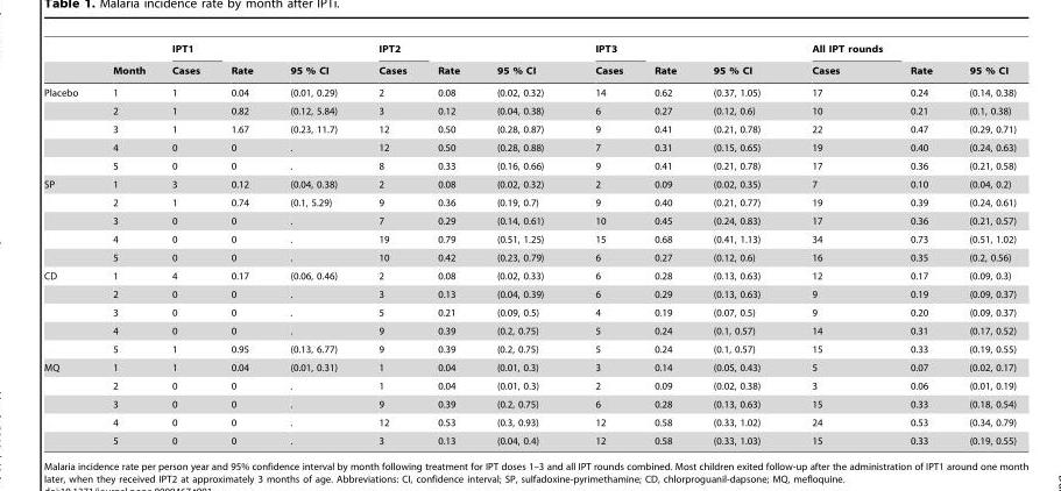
<table><thead><tr><td rowspan="2"></td><td rowspan="2">Month</td><td rowspan="2">IPT1 Cases</td><td rowspan="2">Rate</td><td rowspan="2">95 % CI</td><td rowspan="2">IPT2 Cases</td><td rowspan="2">Rate</td><td rowspan="2">95 % CI</td><td rowspan="2">IPT3 Cases</td><td rowspan="2">Rate</td><td rowspan="2">95 % CI</td><td rowspan="2">All IPT rounds Cases</td><td rowspan="2">Rate</td><td rowspan="2">95 % CI</td></tr><tr></tr></thead><tbody><tr><td rowspan="5">Placebo</td><td>1</td><td>1</td><td>0.04</td><td>(0.01, 0.29)</td><td>2</td><td>0.08</td><td>(0.02, 0.32)</td><td>14</td><td>0.62</td><td>(0.37, 1.05)</td><td>17</td><td>0.24</td><td>(0.14, 0.38)</td></tr><tr><td>2</td><td>1</td><td>0.82</td><td>(0.12, 5.84)</td><td>3</td><td>0.12</td><td>(0.04, 0.38)</td><td>6</td><td>0.27</td><td>(0.12, 0.6)</td><td>10</td><td>0.21</td><td>(0.1, 0.38)</td></tr><tr><td>3</td><td>1</td><td>1.67</td><td>(0.23, 11.7)</td><td>12</td><td>0.50</td><td>(0.28, 0.87)</td><td>9</td><td>0.41</td><td>(0.21, 0.78)</td><td>22</td><td>0.47</td><td>(0.29, 0.71)</td></tr><tr><td>4</td><td>0</td><td>0</td><td>.</td><td>12</td><td>0.50</td><td>(0.28, 0.88)</td><td>7</td><td>0.31</td><td>(0.15, 0.65)</td><td>19</td><td>0.40</td><td>(0.24, 0.63)</td></tr><tr><td>5</td><td>0</td><td>0</td><td>.</td><td>8</td><td>0.33</td><td>(0.16, 0.66)</td><td>9</td><td>0.41</td><td>(0.21, 0.78)</td><td>17</td><td>0.36</td><td>(0.21, 0.58)</td></tr><tr><td rowspan="5">SP</td><td>1</td><td>3</td><td>0.12</td><td>(0.04, 0.38)</td><td>2</td><td>0.08</td><td>(0.02, 0.32)</td><td>2</td><td>0.09</td><td>(0.02, 0.35)</td><td>7</td><td>0.10</td><td>(0.04, 0.2)</td></tr><tr><td>2</td><td>1</td><td>0.74</td><td>(0.1, 5.29)</td><td>9</td><td>0.36</td><td>(0.19, 0.7)</td><td>9</td><td>0.40</td><td>(0.21, 0.77)</td><td>19</td><td>0.39</td><td>(0.24, 0.61)</td></tr><tr><td>3</td><td>0</td><td>0</td><td>.</td><td>7</td><td>0.29</td><td>(0.14, 0.61)</td><td>10</td><td>0.45</td><td>(0.24, 0.83)</td><td>17</td><td>0.36</td><td>(0.21, 0.57)</td></tr><tr><td>4</td><td>0</td><td>0</td><td>.</td><td>19</td><td>0.79</td><td>(0.51, 1.25)</td><td>15</td><td>0.68</td><td>(0.41, 1.13)</td><td>34</td><td>0.73</td><td>(0.51, 1.02)</td></tr><tr><td>5</td><td>0</td><td>0</td><td>.</td><td>10</td><td>0.42</td><td>(0.23, 0.79)</td><td>6</td><td>0.27</td><td>(0.12, 0.6)</td><td>16</td><td>0.35</td><td>(0.2, 0.56)</td></tr><tr><td rowspan="5">CD</td><td>1</td><td>4</td><td>0.17</td><td>(0.06, 0.46)</td><td>2</td><td>0.08</td><td>(0.02, 0.33)</td><td>6</td><td>0.28</td><td>(0.13, 0.63)</td><td>12</td><td>0.17</td><td>(0.09, 0.3)</td></tr><tr><td>2</td><td>0</td><td>0</td><td>.</td><td>3</td><td>0.13</td><td>(0.04, 0.39)</td><td>6</td><td>0.29</td><td>(0.13, 0.63)</td><td>9</td><td>0.19</td><td>(0.09, 0.37)</td></tr><tr><td>3</td><td>0</td><td>0</td><td>.</td><td>5</td><td>0.21</td><td>(0.09, 0.5)</td><td>4</td><td>0.19</td><td>(0.07, 0.5)</td><td>9</td><td>0.20</td><td>(0.09, 0.37)</td></tr><tr><td>4</td><td>0</td><td>0</td><td>.</td><td>9</td><td>0.39</td><td>(0.2, 0.75)</td><td>5</td><td>0.24</td><td>(0.1, 0.57)</td><td>14</td><td>0.31</td><td>(0.17, 0.52)</td></tr><tr><td>5</td><td>1</td><td>0.95</td><td>(0.13, 6.77)</td><td>9</td><td>0.39</td><td>(0.2, 0.75)</td><td>5</td><td>0.24</td><td>(0.1, 0.57)</td><td>15</td><td>0.33</td><td>(0.19, 0.55)</td></tr><tr><td rowspan="5">MQ</td><td>1</td><td>1</td><td>0.04</td><td>(0.01, 0.31)</td><td>1</td><td>0.04</td><td>(0.01, 0.3)</td><td>3</td><td>0.14</td><td>(0.05, 0.43)</td><td>5</td><td>0.07</td><td>(0.02, 0.17)</td></tr><tr><td>2</td><td>0</td><td>0</td><td>.</td><td>1</td><td>0.04</td><td>(0.01, 0.3)</td><td>2</td><td>0.09</td><td>(0.02, 0.38)</td><td>3</td><td>0.06</td><td>(0.01, 0.19)</td></tr><tr><td>3</td><td>0</td><td>0</td><td>.</td><td>9</td><td>0.39</td><td>(0.2, 0.75)</td><td>6</td><td>0.28</td><td>(0.13, 0.63)</td><td>15</td><td>0.33</td><td>(0.18, 0.54)</td></tr><tr><td>4</td><td>0</td><td>0</td><td>.</td><td>12</td><td>0.53</td><td>(0.3, 0.93)</td><td>12</td><td>0.58</td><td>(0.33, 1.02)</td><td>24</td><td>0.53</td><td>(0.34, 0.79)</td></tr><tr><td>5</td><td>0</td><td>0</td><td>.</td><td>3</td><td>0.13</td><td>(0.04, 0.4)</td><td>12</td><td>0.58</td><td>(0.33, 1.03)</td><td>15</td><td>0.33</td><td>(0.19, 0.55)</td></tr></tbody></table>